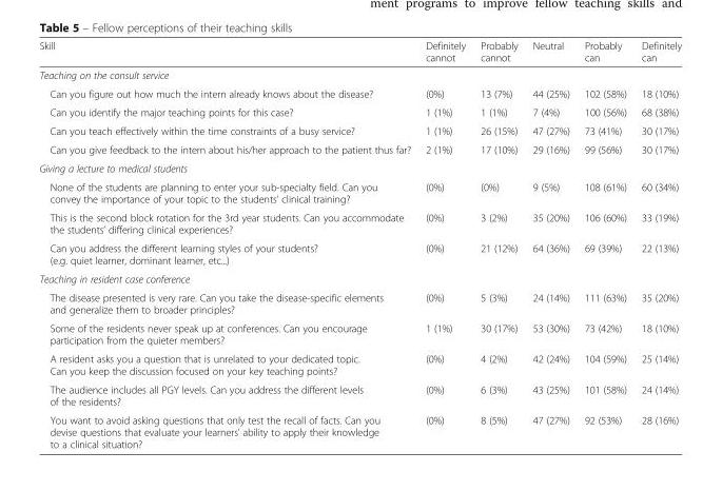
<table><thead><tr><td>Skill</td><td>Definitely cannot</td><td>Probably cannot</td><td>Neutral</td><td>Probably can</td><td>Definitely can</td></tr></thead><tbody><tr><td colspan="6">Teaching on the consult service</td></tr><tr><td>Can you figure out how much the intern already knows about the disease?</td><td>(0%)</td><td>13 (7%)</td><td>44 (25%)</td><td>102 (58%)</td><td>18 (10%)</td></tr><tr><td>Can you identify the major teaching points for this case?</td><td>1 (1%)</td><td>1 (1%)</td><td>7 (4%)</td><td>100 (56%)</td><td>68 (38%)</td></tr><tr><td>Can you teach effectively within the time constraints of a busy service?</td><td>1 (1%)</td><td>26 (15%)</td><td>47 (27%)</td><td>73 (41%)</td><td>30 (17%)</td></tr><tr><td>Can you give feedback to the intern about his/her approach to the patient thus far?</td><td>2 (1%)</td><td>17 (10%)</td><td>29 (16%)</td><td>99 (56%)</td><td>30 (17%)</td></tr><tr><td colspan="6">Giving a lecture to medical students</td></tr><tr><td>None of the students are planning to enter your sub-specialty field. Can you convey the importance of your topic to the students’ clinical training?</td><td>(0%)</td><td>(0%)</td><td>9 (5%)</td><td>108 (61%)</td><td>60 (34%)</td></tr><tr><td>This is the second block rotation for the 3rd year students. Can you accommodate the students’ differing clinical experiences?</td><td>(0%)</td><td>3 (2%)</td><td>35 (20%)</td><td>106 (60%)</td><td>33 (19%)</td></tr><tr><td>Can you address the different learning styles of your students? (e.g. quiet learner, dominant learner, etc...)</td><td>(0%)</td><td>21 (12%)</td><td>64 (36%)</td><td>69 (39%)</td><td>22 (13%)</td></tr><tr><td colspan="6">Teaching in resident case conference</td></tr><tr><td>The disease presented is very rare. Can you take the disease-specific elements and generalize them to broader principles?</td><td>(0%)</td><td>5 (3%)</td><td>24 (14%)</td><td>111 (63%)</td><td>35 (20%)</td></tr><tr><td>Some of the residents never speak up at conferences. Can you encourage participation from the quieter members?</td><td>1 (1%)</td><td>30 (17%)</td><td>53 (30%)</td><td>73 (42%)</td><td>18 (10%)</td></tr><tr><td>A resident asks you a question that is unrelated to your dedicated topic. Can you keep the discussion focused on your key teaching points?</td><td>(0%)</td><td>4 (2%)</td><td>42 (24%)</td><td>104 (59%)</td><td>25 (14%)</td></tr><tr><td>The audience includes all PGY levels. Can you address the different levels of the residents?</td><td>(0%)</td><td>6 (3%)</td><td>43 (25%)</td><td>101 (58%)</td><td>24 (14%)</td></tr><tr><td>You want to avoid asking questions that only test the recall of facts. Can you devise questions that evaluate your learners’ ability to apply their knowledge to a clinical situation?</td><td>(0%)</td><td>8 (5%)</td><td>47 (27%)</td><td>92 (53%)</td><td>28 (16%)</td></tr></tbody></table>